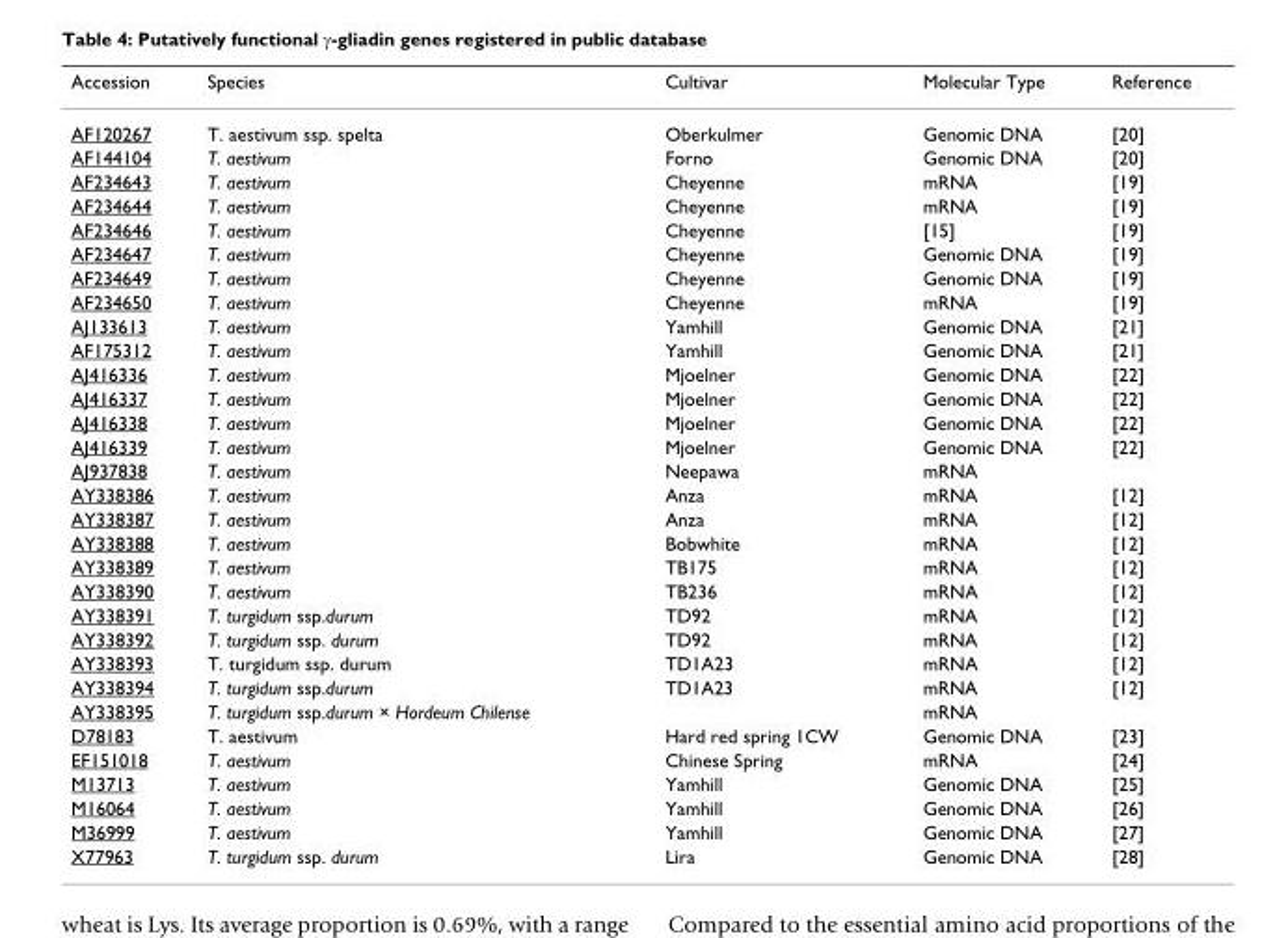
<table><thead><tr><td>Accession</td><td>Species</td><td>Cultivar</td><td>Molecular Type</td><td>Reference</td></tr></thead><tbody><tr><td>AF120267</td><td>T. aestivum ssp. spelta</td><td>Oberkulmer</td><td>Genomic DNA</td><td>[20]</td></tr><tr><td>AF144104</td><td>T. aestivum</td><td>Forno</td><td>Genomic DNA</td><td>[20]</td></tr><tr><td>AF234643</td><td>T. aestivum</td><td>Cheyenne</td><td>mRNA</td><td>[19]</td></tr><tr><td>AF234644</td><td>T. aestivum</td><td>Cheyenne</td><td>mRNA</td><td>[19]</td></tr><tr><td>AF234646</td><td>T. aestivum</td><td>Cheyenne</td><td>[15]</td><td>[19]</td></tr><tr><td>AF234647</td><td>T. aestivum</td><td>Cheyenne</td><td>Genomic DNA</td><td>[19]</td></tr><tr><td>AF234649</td><td>T. aestivum</td><td>Cheyenne</td><td>Genomic DNA</td><td>[19]</td></tr><tr><td>AF234650</td><td>T. aestivum</td><td>Cheyenne</td><td>mRNA</td><td>[19]</td></tr><tr><td>AJ133613</td><td>T. aestivum</td><td>Yamhill</td><td>Genomic DNA</td><td>[21]</td></tr><tr><td>AF175312</td><td>T. aestivum</td><td>Yamhill</td><td>Genomic DNA</td><td>[21]</td></tr><tr><td>AJ416336</td><td>T. aestivum</td><td>Mjoelner</td><td>Genomic DNA</td><td>[22]</td></tr><tr><td>AJ416337</td><td>T. aestivum</td><td>Mjoelner</td><td>Genomic DNA</td><td>[22]</td></tr><tr><td>AJ416338</td><td>T. aestivum</td><td>Mjoelner</td><td>Genomic DNA</td><td>[22]</td></tr><tr><td>AJ416339</td><td>T. aestivum</td><td>Mjoelner</td><td>Genomic DNA</td><td>[22]</td></tr><tr><td>AJ937838</td><td>T. aestivum</td><td>Neepawa</td><td>mRNA</td><td></td></tr><tr><td>AY338386</td><td>T. aestivum</td><td>Anza</td><td>mRNA</td><td>[12]</td></tr><tr><td>AY338387</td><td>T. aestivum</td><td>Anza</td><td>mRNA</td><td>[12]</td></tr><tr><td>AY338388</td><td>T. aestivum</td><td>Bobwhite</td><td>mRNA</td><td>[12]</td></tr><tr><td>AY338389</td><td>T. aestivum</td><td>TB175</td><td>mRNA</td><td>[12]</td></tr><tr><td>AY338390</td><td>T. aestivum</td><td>TB236</td><td>mRNA</td><td>[12]</td></tr><tr><td>AY338391</td><td>T. turgidum ssp.durum</td><td>TD92</td><td>mRNA</td><td>[12]</td></tr><tr><td>AY338392</td><td>T. turgidum ssp. durum</td><td>TD92</td><td>mRNA</td><td>[12]</td></tr><tr><td>AY338393</td><td>T. turgidum ssp. durum</td><td>TD1A23</td><td>mRNA</td><td>[12]</td></tr><tr><td>AY338394</td><td>T. turgidum ssp.durum</td><td>TD1A23</td><td>mRNA</td><td>[12]</td></tr><tr><td>AY338395</td><td>T. turgidum ssp.durum × Hordeum Chilense</td><td></td><td>mRNA</td><td></td></tr><tr><td>D78183</td><td>T. aestivum</td><td>Hard red spring 1CW</td><td>Genomic DNA</td><td>[23]</td></tr><tr><td>EF151018</td><td>T. aestivum</td><td>Chinese Spring</td><td>mRNA</td><td>[24]</td></tr><tr><td>M13713</td><td>T. aestivum</td><td>Yamhill</td><td>Genomic DNA</td><td>[25]</td></tr><tr><td>M16064</td><td>T. aestivum</td><td>Yamhill</td><td>Genomic DNA</td><td>[26]</td></tr><tr><td>M36999</td><td>T. aestivum</td><td>Yamhill</td><td>Genomic DNA</td><td>[27]</td></tr><tr><td>X77963</td><td>T. turgidum ssp. durum</td><td>Lira</td><td>Genomic DNA</td><td>[28]</td></tr></tbody></table>